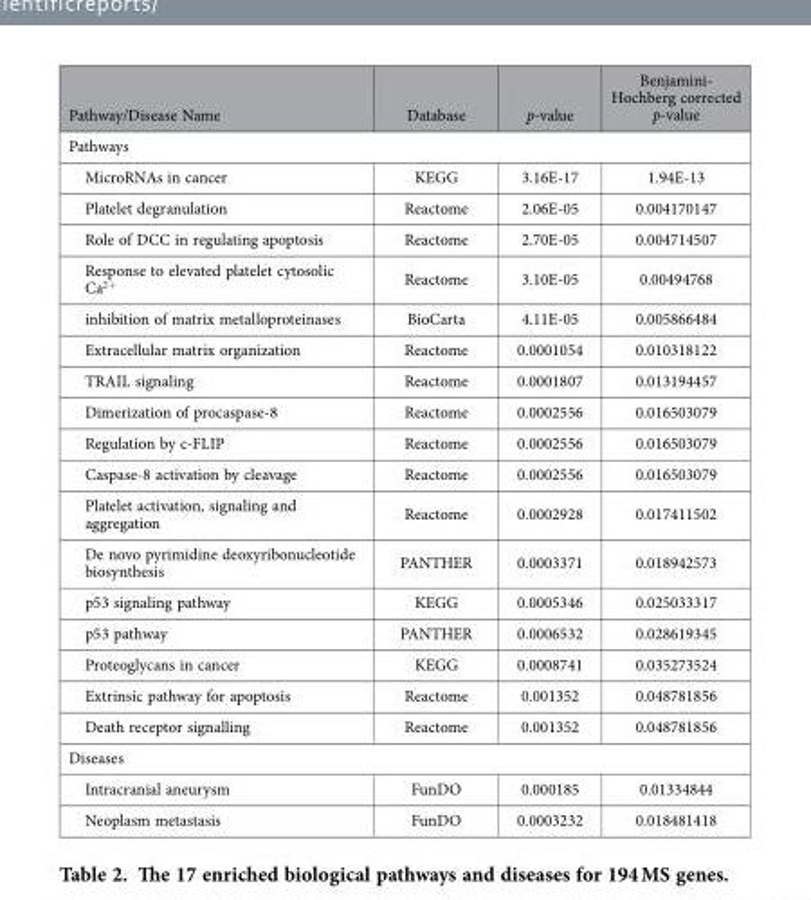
<table><thead><tr><td>Pathway/Disease Name</td><td>Database</td><td>p-value</td><td>Benjamini- Hochberg corrected p-value</td></tr></thead><tbody><tr><td colspan="4">Pathways</td></tr><tr><td>MicroRNAs in cancer</td><td>KEGG</td><td>3.16E-17</td><td>1.94E-13</td></tr><tr><td>Platelet degranulation</td><td>Reactome</td><td>2.06E-05</td><td>0.004170147</td></tr><tr><td>Role of DCC in regulating apoptosis</td><td>Reactome</td><td>2.70E-05</td><td>0.004714507</td></tr><tr><td>Response to elevated platelet cytosolic Ca<sup>2+</sup></td><td>Reactome</td><td>3.10E-05</td><td>0.00494768</td></tr><tr><td>inhibition of matrix metalloproteinases</td><td>BioCarta</td><td>4.11E-05</td><td>0.005866484</td></tr><tr><td>Extracellular matrix organization</td><td>Reactome</td><td>0.0001054</td><td>0.010318122</td></tr><tr><td>TRAIL signaling</td><td>Reactome</td><td>0.0001807</td><td>0.013194457</td></tr><tr><td>Dimerization of procaspase-8</td><td>Reactome</td><td>0.0002556</td><td>0.016503079</td></tr><tr><td>Regulation by c-FLIP</td><td>Reactome</td><td>0.0002556</td><td>0.016503079</td></tr><tr><td>Caspase-8 activation by cleavage</td><td>Reactome</td><td>0.0002556</td><td>0.016503079</td></tr><tr><td>Platelet activation, signaling and aggregation</td><td>Reactome</td><td>0.0002928</td><td>0.017411502</td></tr><tr><td>De novo pyrimidine deoxyribonucleotide biosynthesis</td><td>PANTHER</td><td>0.0003371</td><td>0.018942573</td></tr><tr><td>p53 signaling pathway</td><td>KEGG</td><td>0.0005346</td><td>0.025033317</td></tr><tr><td>p53 pathway</td><td>PANTHER</td><td>0.0006532</td><td>0.028619345</td></tr><tr><td>Proteoglycans in cancer</td><td>KEGG</td><td>0.0008741</td><td>0.035273524</td></tr><tr><td>Extrinsic pathway for apoptosis</td><td>Reactome</td><td>0.001352</td><td>0.048781856</td></tr><tr><td>Death receptor signalling</td><td>Reactome</td><td>0.001352</td><td>0.048781856</td></tr><tr><td colspan="4">Diseases</td></tr><tr><td>Intracranial aneurysm</td><td>FunDO</td><td>0.000185</td><td>0.01334844</td></tr><tr><td>Neoplasm metastasis</td><td>FunDO</td><td>0.0003232</td><td>0.018481418</td></tr></tbody></table>